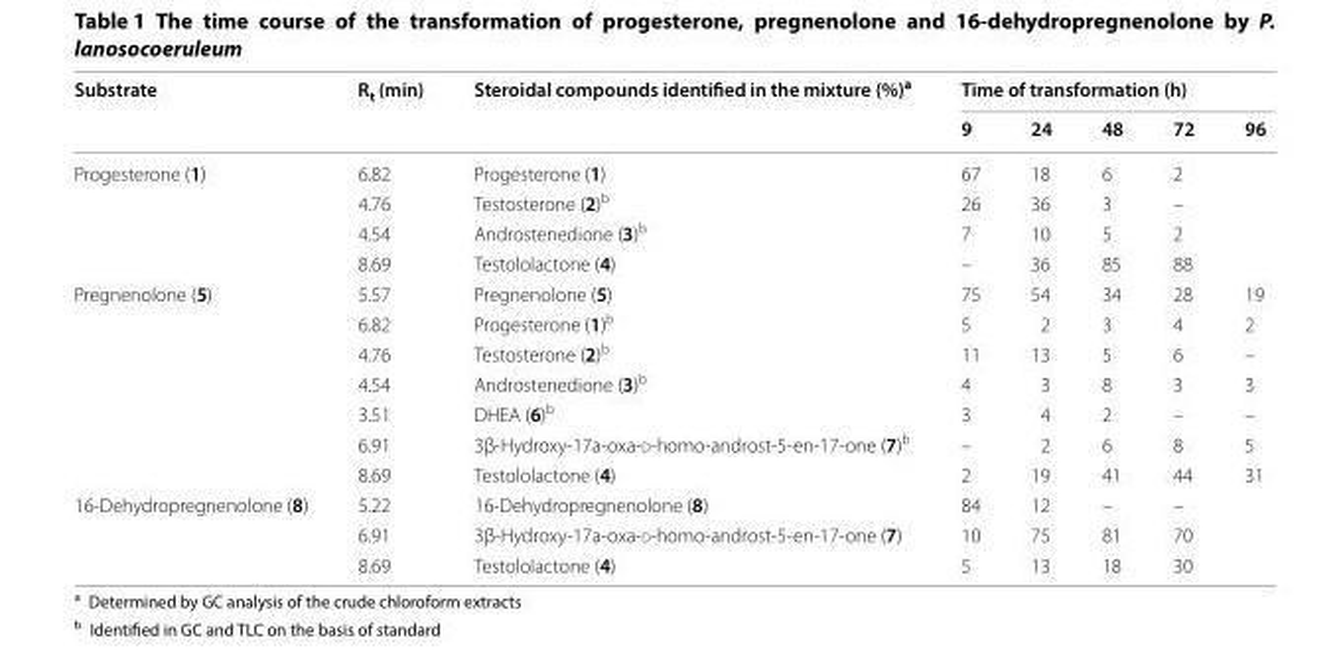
<table><thead><tr><td rowspan="2">Substrate</td><td rowspan="2">R<sub>t</sub> (min)</td><td rowspan="2">Steroidal compounds identified in the mixture (%)<sup>a</sup></td><td colspan="5">Time of transformation (h)</td></tr><tr><td>9</td><td>24</td><td>48</td><td>72</td><td>96</td></tr></thead><tbody><tr><td rowspan="4">Progesterone (1)</td><td>6.82</td><td>Progesterone (1)</td><td>67</td><td>18</td><td>6</td><td>2</td><td></td></tr><tr><td>4.76</td><td>Testosterone (2)<sup>b</sup></td><td>26</td><td>36</td><td>3</td><td>–</td><td></td></tr><tr><td>4.54</td><td>Androstenedione (3)<sup>b</sup></td><td>7</td><td>10</td><td>5</td><td>2</td><td></td></tr><tr><td>8.69</td><td>Testololactone (4)</td><td>–</td><td>36</td><td>85</td><td>88</td><td></td></tr><tr><td rowspan="7">Pregnenolone (5)</td><td>5.57</td><td>Pregnenolone (5)</td><td>75</td><td>54</td><td>34</td><td>28</td><td>19</td></tr><tr><td>6.82</td><td>Progesterone (1)<sup>b</sup></td><td>5</td><td>2</td><td>3</td><td>4</td><td>2</td></tr><tr><td>4.76</td><td>Testosterone (2)<sup>b</sup></td><td>11</td><td>13</td><td>5</td><td>6</td><td>–</td></tr><tr><td>4.54</td><td>Androstenedione (3)<sup>b</sup></td><td>4</td><td>3</td><td>8</td><td>3</td><td>3</td></tr><tr><td>3.51</td><td>DHEA (6)<sup>b</sup></td><td>3</td><td>4</td><td>2</td><td>–</td><td>–</td></tr><tr><td>6.91</td><td>3β-Hydroxy-17a-oxa-d-homo-androst-5-en-17-one (7)<sup>b</sup></td><td>–</td><td>2</td><td>6</td><td>8</td><td>5</td></tr><tr><td>8.69</td><td>Testololactone (4)</td><td>2</td><td>19</td><td>41</td><td>44</td><td>31</td></tr><tr><td rowspan="3">16-Dehydropregnenolone (8)</td><td>5.22</td><td>16-Dehydropregnenolone (8)</td><td>84</td><td>12</td><td>–</td><td>–</td><td></td></tr><tr><td>6.91</td><td>3β-Hydroxy-17a-oxa-d-homo-androst-5-en-17-one (7)</td><td>10</td><td>75</td><td>81</td><td>70</td><td></td></tr><tr><td>8.69</td><td>Testololactone (4)</td><td>5</td><td>13</td><td>18</td><td>30</td><td></td></tr></tbody></table>